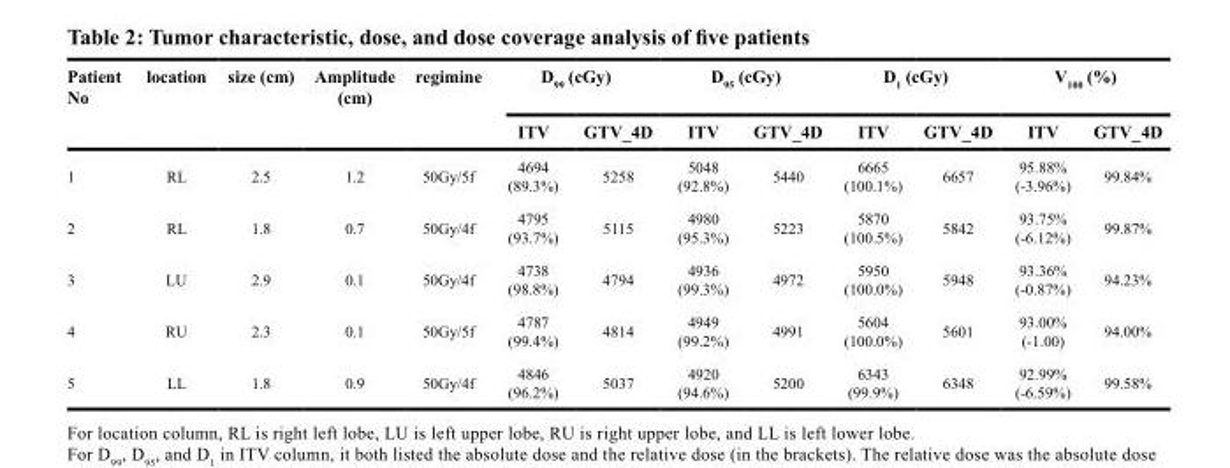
<table><thead><tr><td rowspan="2">Patient No</td><td rowspan="2">location</td><td rowspan="2">size (cm)</td><td rowspan="2">Amplitude (cm)</td><td rowspan="2">regimine</td><td colspan="2">D<sub>99</sub> (cGy)</td><td colspan="2">D<sub>95</sub> (cGy)</td><td colspan="2">D<sub>1</sub> (cGy)</td><td colspan="2">V<sub>100</sub> (%)</td></tr><tr><td>ITV</td><td>GTV_4D</td><td>ITV</td><td>GTV_4D</td><td>ITV</td><td>GTV_4D</td><td>ITV</td><td>GTV_4D</td></tr></thead><tbody><tr><td>1</td><td>RL</td><td>2.5</td><td>1.2</td><td>50Gy/5f</td><td>4694 (89.3%)</td><td>5258</td><td>5048 (92.8%)</td><td>5440</td><td>6665 (100.1%)</td><td>6657</td><td>95.88% (-3.96%)</td><td>99.84%</td></tr><tr><td>2</td><td>RL</td><td>1.8</td><td>0.7</td><td>50Gy/4f</td><td>4795 (93.7%)</td><td>5115</td><td>4980 (95.3%)</td><td>5223</td><td>5870 (100.5%)</td><td>5842</td><td>93.75% (-6.12%)</td><td>99.87%</td></tr><tr><td>3</td><td>LU</td><td>2.9</td><td>0.1</td><td>50Gy/4f</td><td>4738 (98.8%)</td><td>4794</td><td>4936 (99.3%)</td><td>4972</td><td>5950 (100.0%)</td><td>5948</td><td>93.36% (-0.87%)</td><td>94.23%</td></tr><tr><td>4</td><td>RU</td><td>2.3</td><td>0.1</td><td>50Gy/5f</td><td>4787 (99.4%)</td><td>4814</td><td>4949 (99.2%)</td><td>4991</td><td>5604 (100.0%)</td><td>5601</td><td>93.00% (-1.00)</td><td>94.00%</td></tr><tr><td>5</td><td>LL</td><td>1.8</td><td>0.9</td><td>50Gy/4f</td><td>4846 (96.2%)</td><td>5037</td><td>4920 (94.6%)</td><td>5200</td><td>6343 (99.9%)</td><td>6348</td><td>92.99% (-6.59%)</td><td>99.58%</td></tr></tbody></table>